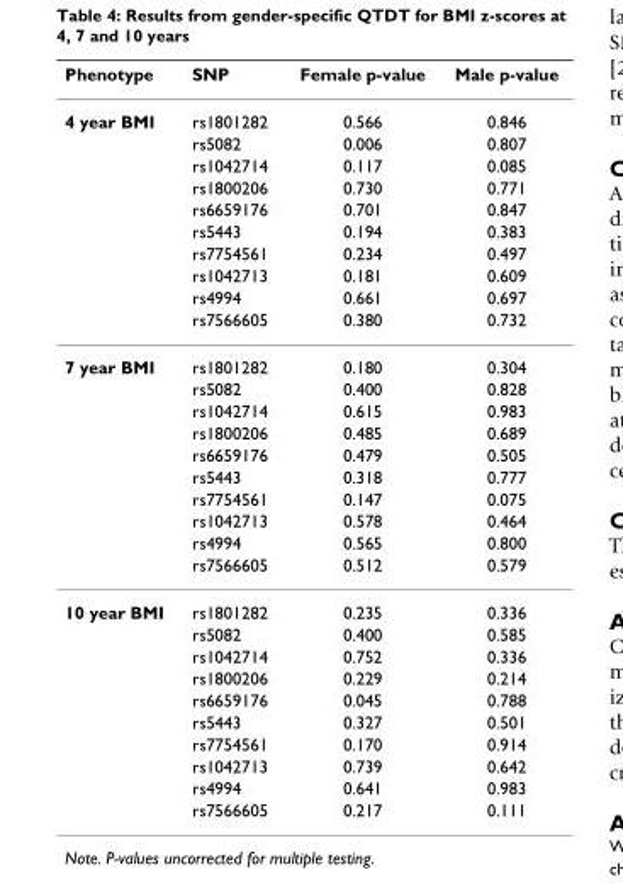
<table><thead><tr><td>Phenotype</td><td>SNP</td><td>Female p-value</td><td>Male p-value</td></tr></thead><tbody><tr><td rowspan="10">4 year BMI</td><td>rs1801282</td><td>0.566</td><td>0.846</td></tr><tr><td>rs5082</td><td>0.006</td><td>0.807</td></tr><tr><td>rs1042714</td><td>0.117</td><td>0.085</td></tr><tr><td>rs1800206</td><td>0.730</td><td>0.771</td></tr><tr><td>rs6659176</td><td>0.701</td><td>0.847</td></tr><tr><td>rs5443</td><td>0.194</td><td>0.383</td></tr><tr><td>rs7754561</td><td>0.234</td><td>0.497</td></tr><tr><td>rs1042713</td><td>0.181</td><td>0.609</td></tr><tr><td>rs4994</td><td>0.661</td><td>0.697</td></tr><tr><td>rs7566605</td><td>0.380</td><td>0.732</td></tr><tr><td rowspan="10">7 year BMI</td><td>rs1801282</td><td>0.180</td><td>0.304</td></tr><tr><td>rs5082</td><td>0.400</td><td>0.828</td></tr><tr><td>rs1042714</td><td>0.615</td><td>0.983</td></tr><tr><td>rs1800206</td><td>0.485</td><td>0.689</td></tr><tr><td>rs6659176</td><td>0.479</td><td>0.505</td></tr><tr><td>rs5443</td><td>0.318</td><td>0.777</td></tr><tr><td>rs7754561</td><td>0.147</td><td>0.075</td></tr><tr><td>rs1042713</td><td>0.578</td><td>0.464</td></tr><tr><td>rs4994</td><td>0.565</td><td>0.800</td></tr><tr><td>rs7566605</td><td>0.512</td><td>0.579</td></tr><tr><td rowspan="10">10 year BMI</td><td>rs1801282</td><td>0.235</td><td>0.336</td></tr><tr><td>rs5082</td><td>0.400</td><td>0.585</td></tr><tr><td>rs1042714</td><td>0.752</td><td>0.336</td></tr><tr><td>rs1800206</td><td>0.229</td><td>0.214</td></tr><tr><td>rs6659176</td><td>0.045</td><td>0.788</td></tr><tr><td>rs5443</td><td>0.327</td><td>0.501</td></tr><tr><td>rs7754561</td><td>0.170</td><td>0.914</td></tr><tr><td>rs1042713</td><td>0.739</td><td>0.642</td></tr><tr><td>rs4994</td><td>0.641</td><td>0.983</td></tr><tr><td>rs7566605</td><td>0.217</td><td>0.111</td></tr></tbody></table>